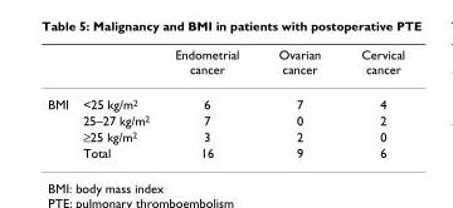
<table><thead><tr><td></td><td></td><td>Endometrial cancer</td><td>Ovarian cancer</td><td>Cervical cancer</td></tr></thead><tbody><tr><td rowspan="4">BMI</td><td>&lt;25 kg/m<sup>2</sup></td><td>6</td><td>7</td><td>4</td></tr><tr><td>25–27 kg/m<sup>2</sup></td><td>7</td><td>0</td><td>2</td></tr><tr><td>≥25 kg/m<sup>2</sup></td><td>3</td><td>2</td><td>0</td></tr><tr><td>Total</td><td>16</td><td>9</td><td>6</td></tr></tbody></table>